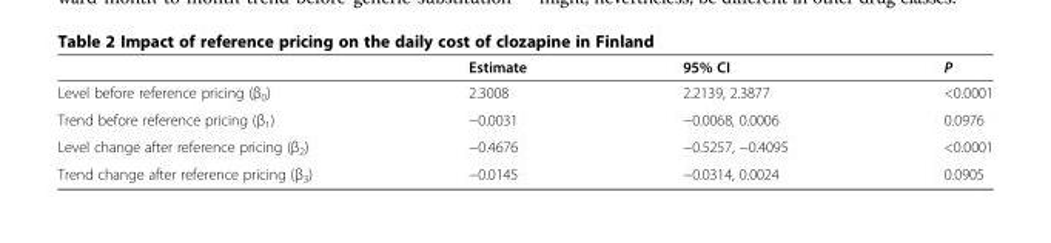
<table><thead><tr><td></td><td>Estimate</td><td>95% CI</td><td>P</td></tr></thead><tbody><tr><td>Level before reference pricing (β<sub>0</sub>)</td><td>2.3008</td><td>2.2139, 2.3877</td><td>&lt;0.0001</td></tr><tr><td>Trend before reference pricing (β<sub>1</sub>)</td><td>−0.0031</td><td>−0.0068, 0.0006</td><td>0.0976</td></tr><tr><td>Level change after reference pricing (β<sub>2</sub>)</td><td>−0.4676</td><td>−0.5257, −0.4095</td><td>&lt;0.0001</td></tr><tr><td>Trend change after reference pricing (β<sub>3</sub>)</td><td>−0.0145</td><td>−0.0314, 0.0024</td><td>0.0905</td></tr></tbody></table>